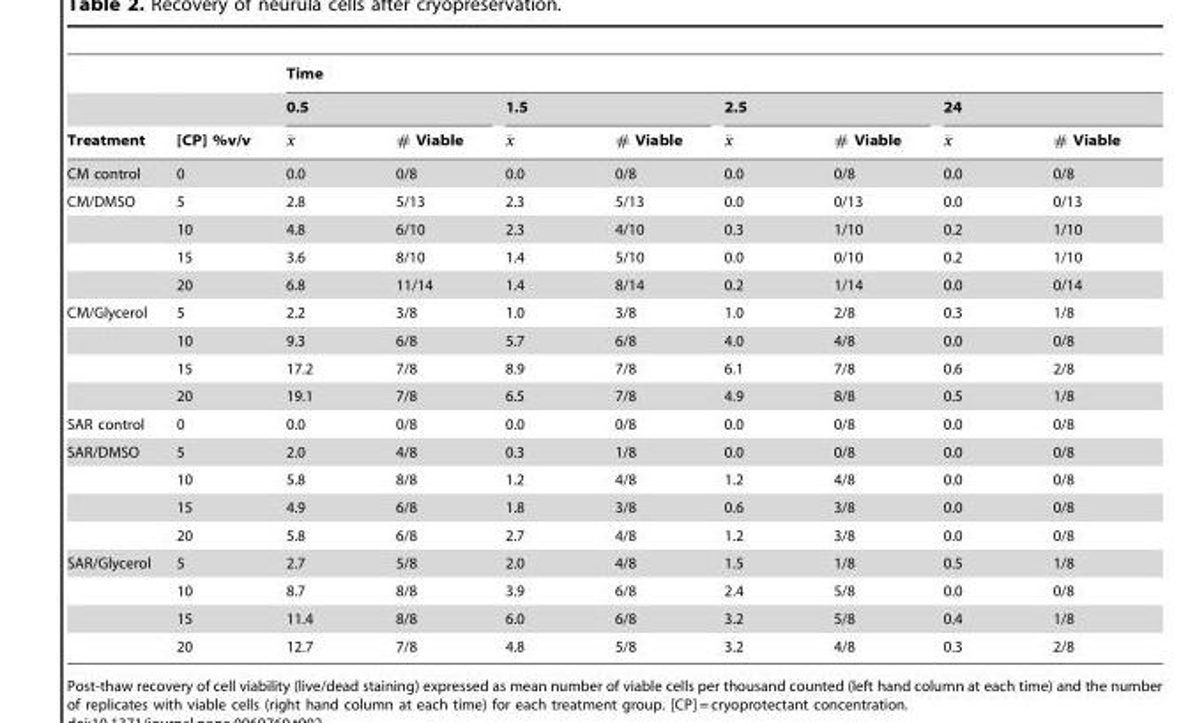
<table><thead><tr><td rowspan="3">Treatment</td><td rowspan="3">[CP] %v/v</td><td colspan="8">Time</td></tr><tr><td colspan="2">0.5</td><td colspan="2">1.5</td><td colspan="2">2.5</td><td colspan="2">24</td></tr><tr><td>�x</td><td># Viable</td><td>�x</td><td># Viable</td><td>�x</td><td># Viable</td><td>�x</td><td># Viable</td></tr></thead><tbody><tr><td>CM control</td><td>0</td><td>0.0</td><td>0/8</td><td>0.0</td><td>0/8</td><td>0.0</td><td>0/8</td><td>0.0</td><td>0/8</td></tr><tr><td rowspan="4">CM/DMSO</td><td>5</td><td>2.8</td><td>5/13</td><td>2.3</td><td>5/13</td><td>0.0</td><td>0/13</td><td>0.0</td><td>0/13</td></tr><tr><td>10</td><td>4.8</td><td>6/10</td><td>2.3</td><td>4/10</td><td>0.3</td><td>1/10</td><td>0.2</td><td>1/10</td></tr><tr><td>15</td><td>3.6</td><td>8/10</td><td>1.4</td><td>5/10</td><td>0.0</td><td>0/10</td><td>0.2</td><td>1/10</td></tr><tr><td>20</td><td>6.8</td><td>11/14</td><td>1.4</td><td>8/14</td><td>0.2</td><td>1/14</td><td>0.0</td><td>0/14</td></tr><tr><td rowspan="4">CM/Glycerol</td><td>5</td><td>2.2</td><td>3/8</td><td>1.0</td><td>3/8</td><td>1.0</td><td>2/8</td><td>0.3</td><td>1/8</td></tr><tr><td>10</td><td>9.3</td><td>6/8</td><td>5.7</td><td>6/8</td><td>4.0</td><td>4/8</td><td>0.0</td><td>0/8</td></tr><tr><td>15</td><td>17.2</td><td>7/8</td><td>8.9</td><td>7/8</td><td>6.1</td><td>7/8</td><td>0.6</td><td>2/8</td></tr><tr><td>20</td><td>19.1</td><td>7/8</td><td>6.5</td><td>7/8</td><td>4.9</td><td>8/8</td><td>0.5</td><td>1/8</td></tr><tr><td>SAR control</td><td>0</td><td>0.0</td><td>0/8</td><td>0.0</td><td>0/8</td><td>0.0</td><td>0/8</td><td>0.0</td><td>0/8</td></tr><tr><td rowspan="4">SAR/DMSO</td><td>5</td><td>2.0</td><td>4/8</td><td>0.3</td><td>1/8</td><td>0.0</td><td>0/8</td><td>0.0</td><td>0/8</td></tr><tr><td>10</td><td>5.8</td><td>8/8</td><td>1.2</td><td>4/8</td><td>1.2</td><td>4/8</td><td>0.0</td><td>0/8</td></tr><tr><td>15</td><td>4.9</td><td>6/8</td><td>1.8</td><td>3/8</td><td>0.6</td><td>3/8</td><td>0.0</td><td>0/8</td></tr><tr><td>20</td><td>5.8</td><td>6/8</td><td>2.7</td><td>4/8</td><td>1.2</td><td>3/8</td><td>0.0</td><td>0/8</td></tr><tr><td rowspan="4">SAR/Glycerol</td><td>5</td><td>2.7</td><td>5/8</td><td>2.0</td><td>4/8</td><td>1.5</td><td>1/8</td><td>0.5</td><td>1/8</td></tr><tr><td>10</td><td>8.7</td><td>8/8</td><td>3.9</td><td>6/8</td><td>2.4</td><td>5/8</td><td>0.0</td><td>0/8</td></tr><tr><td>15</td><td>11.4</td><td>8/8</td><td>6.0</td><td>6/8</td><td>3.2</td><td>5/8</td><td>0.4</td><td>1/8</td></tr><tr><td>20</td><td>12.7</td><td>7/8</td><td>4.8</td><td>5/8</td><td>3.2</td><td>4/8</td><td>0.3</td><td>2/8</td></tr></tbody></table>